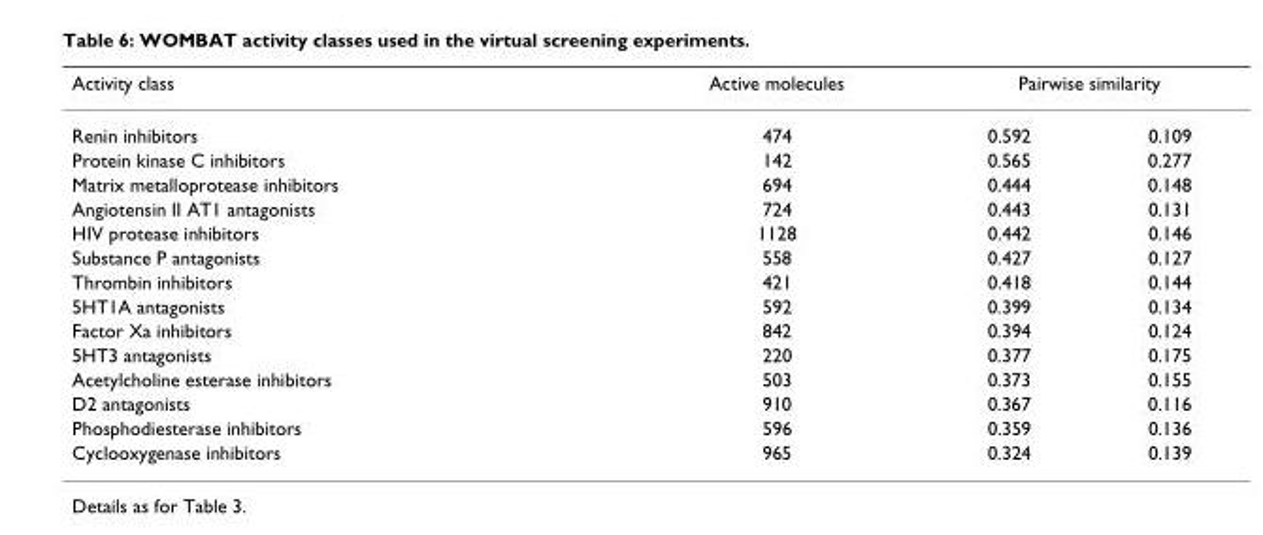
<table><thead><tr><td rowspan="2">Activity class Renin inhibitors</td><td rowspan="2">Active molecules 474</td><td colspan="2">Pairwise similarity</td></tr><tr><td>0.592</td><td>0.109</td></tr></thead><tbody><tr><td>Protein kinase C inhibitors</td><td>142</td><td>0.565</td><td>0.277</td></tr><tr><td>Matrix metalloprotease inhibitors</td><td>694</td><td>0.444</td><td>0.148</td></tr><tr><td>Angiotensin II AT1 antagonists</td><td>724</td><td>0.443</td><td>0.131</td></tr><tr><td>HIV protease inhibitors</td><td>1128</td><td>0.442</td><td>0.146</td></tr><tr><td>Substance P antagonists</td><td>558</td><td>0.427</td><td>0.127</td></tr><tr><td>Thrombin inhibitors</td><td>421</td><td>0.418</td><td>0.144</td></tr><tr><td>5HT1A antagonists</td><td>592</td><td>0.399</td><td>0.134</td></tr><tr><td>Factor Xa inhibitors</td><td>842</td><td>0.394</td><td>0.124</td></tr><tr><td>5HT3 antagonists</td><td>220</td><td>0.377</td><td>0.175</td></tr><tr><td>Acetylcholine esterase inhibitors</td><td>503</td><td>0.373</td><td>0.155</td></tr><tr><td>D2 antagonists</td><td>910</td><td>0.367</td><td>0.116</td></tr><tr><td>Phosphodiesterase inhibitors</td><td>596</td><td>0.359</td><td>0.136</td></tr><tr><td>Cyclooxygenase inhibitors</td><td>965</td><td>0.324</td><td>0.139</td></tr></tbody></table>